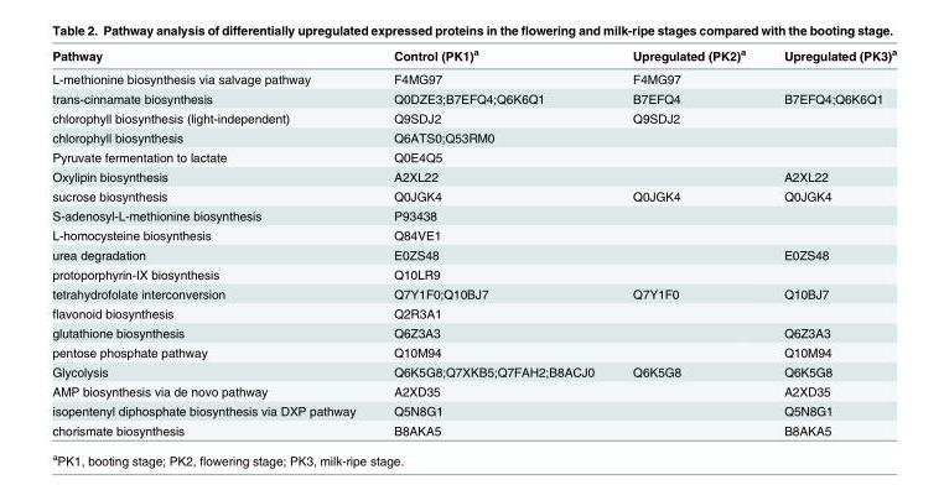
<table><thead><tr><td>Pathway</td><td>Control (PK1)<sup>a</sup></td><td>Upregulated (PK2)<sup>a</sup></td><td>Upregulated (PK3)<sup>a</sup></td></tr></thead><tbody><tr><td>L-methionine biosynthesis via salvage pathway</td><td>F4MG97</td><td>F4MG97</td><td></td></tr><tr><td>trans-cinnamate biosynthesis</td><td>Q0DZE3;B7EFQ4;Q6K6Q1</td><td>B7EFQ4</td><td>B7EFQ4;Q6K6Q1</td></tr><tr><td>chlorophyll biosynthesis (light-independent)</td><td>Q9SDJ2</td><td>Q9SDJ2</td><td></td></tr><tr><td>chlorophyll biosynthesis</td><td>Q6ATS0;Q53RM0</td><td></td><td></td></tr><tr><td>Pyruvate fermentation to lactate</td><td>Q0E4Q5</td><td></td><td></td></tr><tr><td>Oxylipin biosynthesis</td><td>A2XL22</td><td></td><td>A2XL22</td></tr><tr><td>sucrose biosynthesis</td><td>Q0JGK4</td><td>Q0JGK4</td><td>Q0JGK4</td></tr><tr><td>S-adenosyl-L-methionine biosynthesis</td><td>P93438</td><td></td><td></td></tr><tr><td>L-homocysteine biosynthesis</td><td>Q84VE1</td><td></td><td></td></tr><tr><td>urea degradation</td><td>E0ZS48</td><td></td><td>E0ZS48</td></tr><tr><td>protoporphyrin-IX biosynthesis</td><td>Q10LR9</td><td></td><td></td></tr><tr><td>tetrahydrofolate interconversion</td><td>Q7Y1F0;Q10BJ7</td><td>Q7Y1F0</td><td>Q10BJ7</td></tr><tr><td>flavonoid biosynthesis</td><td>Q2R3A1</td><td></td><td></td></tr><tr><td>glutathione biosynthesis</td><td>Q6Z3A3</td><td></td><td>Q6Z3A3</td></tr><tr><td>pentose phosphate pathway</td><td>Q10M94</td><td></td><td>Q10M94</td></tr><tr><td>Glycolysis</td><td>Q6K5G8;Q7XKB5;Q7FAH2;B8ACJ0</td><td>Q6K5G8</td><td>Q6K5G8</td></tr><tr><td>AMP biosynthesis via de novo pathway</td><td>A2XD35</td><td></td><td>A2XD35</td></tr><tr><td>isopentenyl diphosphate biosynthesis via DXP pathway</td><td>Q5N8G1</td><td></td><td>Q5N8G1</td></tr><tr><td>chorismate biosynthesis</td><td>B8AKA5</td><td></td><td>B8AKA5</td></tr></tbody></table>